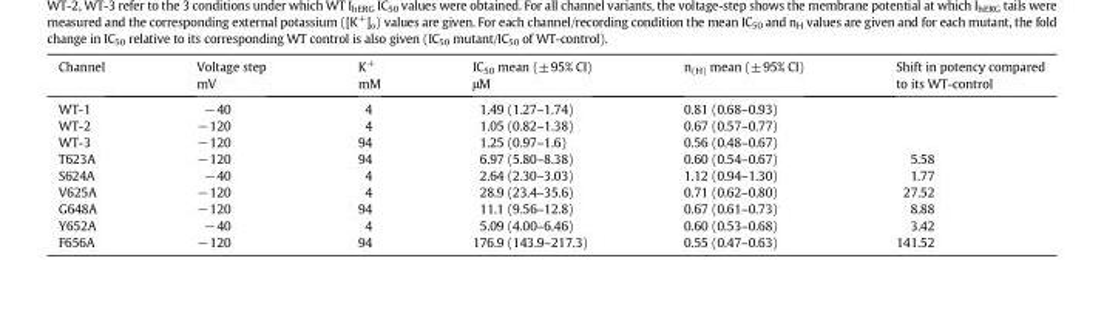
<table><thead><tr><td>Channel</td><td>Voltage step mV</td><td>K<sup>+</sup> mM</td><td>IC<sub>50</sub> mean (±95% CI) μM</td><td>n<sub>(H)</sub> mean (±95% CI)</td><td>Shift in potency compared to its WT-control</td></tr></thead><tbody><tr><td>WT-1</td><td>−40</td><td>4</td><td>1.49 (1.27–1.74)</td><td>0.81 (0.68–0.93)</td><td></td></tr><tr><td>WT-2</td><td>−120</td><td>4</td><td>1.05 (0.82–1.38)</td><td>0.67 (0.57–0.77)</td><td></td></tr><tr><td>WT-3</td><td>−120</td><td>94</td><td>1.25 (0.97–1.6)</td><td>0.56 (0.48–0.67)</td><td></td></tr><tr><td>T623A</td><td>−120</td><td>94</td><td>6.97 (5.80–8.38)</td><td>0.60 (0.54–0.67)</td><td>5.58</td></tr><tr><td>S624A</td><td>−40</td><td>4</td><td>2.64 (2.30–3.03)</td><td>1.12 (0.94–1.30)</td><td>1.77</td></tr><tr><td>V625A</td><td>−120</td><td>4</td><td>28.9 (23.4–35.6)</td><td>0.71 (0.62–0.80)</td><td>27.52</td></tr><tr><td>G648A</td><td>−120</td><td>94</td><td>11.1 (9.56–12.8)</td><td>0.67 (0.61–0.73)</td><td>8.88</td></tr><tr><td>Y652A</td><td>−40</td><td>4</td><td>5.09 (4.00–6.46)</td><td>0.60 (0.53–0.68)</td><td>3.42</td></tr><tr><td>F656A</td><td>−120</td><td>94</td><td>176.9 (143.9–217.3)</td><td>0.55 (0.47–0.63)</td><td>141.52</td></tr></tbody></table>